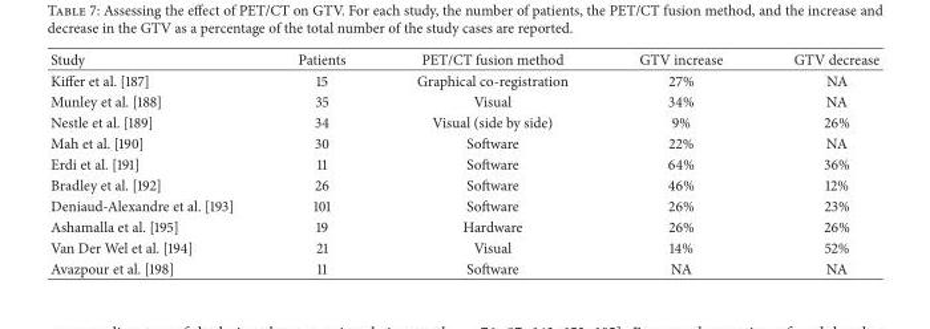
<table><thead><tr><td>Study</td><td>Patients</td><td>PET/CT fusion method</td><td>GTV increase</td><td>GTV decrease</td></tr></thead><tbody><tr><td>Kiffer et al. [187]</td><td>15</td><td>Graphical co-registration</td><td>27%</td><td>NA</td></tr><tr><td>Munley et al. [188]</td><td>35</td><td>Visual</td><td>34%</td><td>NA</td></tr><tr><td>Nestle et al. [189]</td><td>34</td><td>Visual (side by side)</td><td>9%</td><td>26%</td></tr><tr><td>Mah et al. [190]</td><td>30</td><td>Software</td><td>22%</td><td>NA</td></tr><tr><td>Erdi et al. [191]</td><td>11</td><td>Software</td><td>64%</td><td>36%</td></tr><tr><td>Bradley et al. [192]</td><td>26</td><td>Software</td><td>46%</td><td>12%</td></tr><tr><td>Deniaud-Alexandre et al. [193]</td><td>101</td><td>Software</td><td>26%</td><td>23%</td></tr><tr><td>Ashamalla et al. [195]</td><td>19</td><td>Hardware</td><td>26%</td><td>26%</td></tr><tr><td>Van Der Wel et al. [194]</td><td>21</td><td>Visual</td><td>14%</td><td>52%</td></tr><tr><td>Avazpour et al. [198]</td><td>11</td><td>Software</td><td>NA</td><td>NA</td></tr></tbody></table>